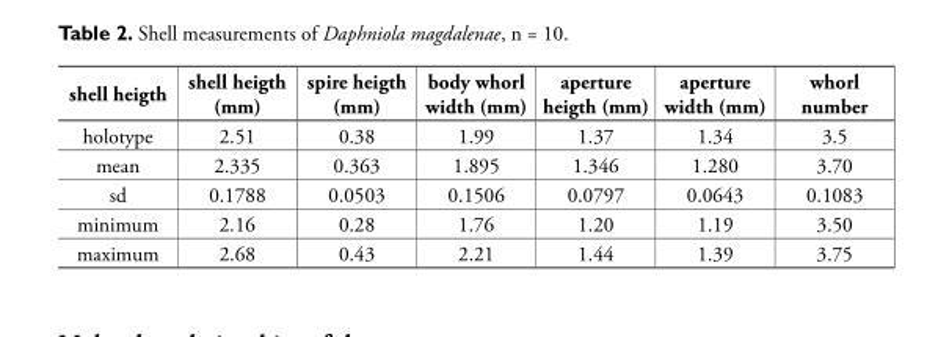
<table><thead><tr><td>shell heigth</td><td>shell heigth (mm)</td><td>spire heigth (mm)</td><td>body whorl width (mm)</td><td>aperture heigth (mm)</td><td>aperture width (mm)</td><td>whorl number</td></tr></thead><tbody><tr><td>holotype</td><td>2.51</td><td>0.38</td><td>1.99</td><td>1.37</td><td>1.34</td><td>3.5</td></tr><tr><td>mean</td><td>2.335</td><td>0.363</td><td>1.895</td><td>1.346</td><td>1.280</td><td>3.70</td></tr><tr><td>sd</td><td>0.1788</td><td>0.0503</td><td>0.1506</td><td>0.0797</td><td>0.0643</td><td>0.1083</td></tr><tr><td>minimum</td><td>2.16</td><td>0.28</td><td>1.76</td><td>1.20</td><td>1.19</td><td>3.50</td></tr><tr><td>maximum</td><td>2.68</td><td>0.43</td><td>2.21</td><td>1.44</td><td>1.39</td><td>3.75</td></tr></tbody></table>